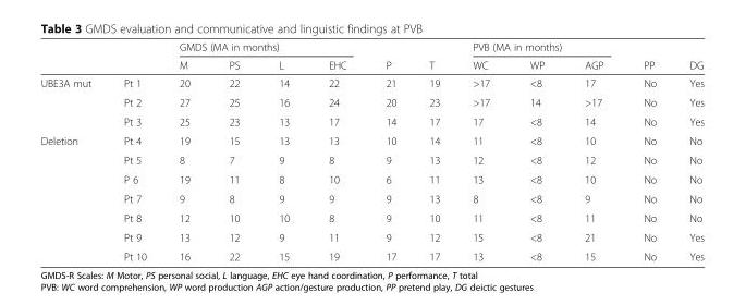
<table><thead><tr><td rowspan="2"></td><td rowspan="2"></td><td colspan="4">GMDS (MA in months)</td><td rowspan="2">P</td><td rowspan="2">T</td><td colspan="3">PVB (MA in months)</td><td rowspan="2">PP</td><td rowspan="2">DG</td></tr><tr><td>M</td><td>PS</td><td>L</td><td>EHC</td><td>WC</td><td>WP</td><td>AGP</td></tr></thead><tbody><tr><td rowspan="3">UBE3A mut</td><td>Pt 1</td><td>20</td><td>22</td><td>14</td><td>22</td><td>21</td><td>19</td><td>&gt;17</td><td>&lt;8</td><td>17</td><td>No</td><td>Yes</td></tr><tr><td>Pt 2</td><td>27</td><td>25</td><td>16</td><td>24</td><td>20</td><td>23</td><td>&gt;17</td><td>14</td><td>&gt;17</td><td>No</td><td>Yes</td></tr><tr><td>Pt 3</td><td>25</td><td>23</td><td>13</td><td>17</td><td>14</td><td>17</td><td>17</td><td>&lt;8</td><td>14</td><td>No</td><td>Yes</td></tr><tr><td rowspan="7">Deletion</td><td>Pt 4</td><td>19</td><td>15</td><td>13</td><td>13</td><td>10</td><td>14</td><td>11</td><td>&lt;8</td><td>10</td><td>No</td><td>No</td></tr><tr><td>Pt 5</td><td>8</td><td>7</td><td>9</td><td>8</td><td>9</td><td>13</td><td>12</td><td>&lt;8</td><td>12</td><td>No</td><td>No</td></tr><tr><td>P 6</td><td>19</td><td>11</td><td>8</td><td>10</td><td>6</td><td>11</td><td>13</td><td>&lt;8</td><td>10</td><td>No</td><td>No</td></tr><tr><td>Pt 7</td><td>9</td><td>8</td><td>9</td><td>9</td><td>9</td><td>13</td><td>8</td><td>&lt;8</td><td>9</td><td>No</td><td>No</td></tr><tr><td>Pt 8</td><td>12</td><td>10</td><td>10</td><td>8</td><td>9</td><td>10</td><td>11</td><td>&lt;8</td><td>11</td><td>No</td><td>No</td></tr><tr><td>Pt 9</td><td>13</td><td>12</td><td>9</td><td>11</td><td>9</td><td>12</td><td>15</td><td>&lt;8</td><td>21</td><td>No</td><td>Yes</td></tr><tr><td>Pt 10</td><td>16</td><td>22</td><td>15</td><td>19</td><td>17</td><td>17</td><td>13</td><td>&lt;8</td><td>15</td><td>No</td><td>Yes</td></tr></tbody></table>